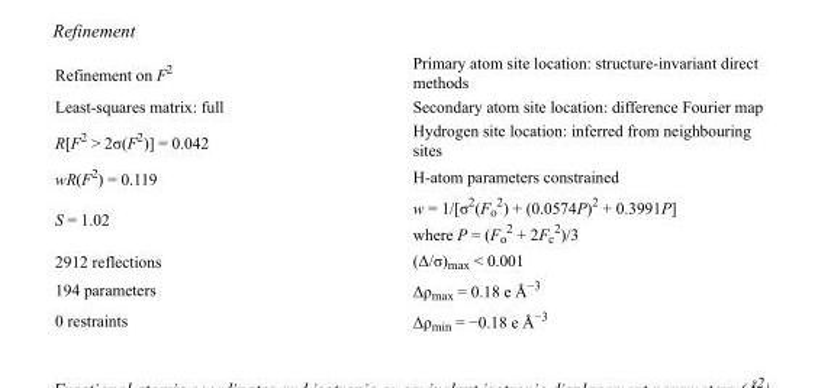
<table><tbody><tr><td>Refinement on F<sup>2</sup></td><td>Primary atom site location: structure-invariant direct methods</td></tr><tr><td>Least-squares matrix: full</td><td>Secondary atom site location: difference Fourier map</td></tr><tr><td>R[F<sup>2</sup> &gt; 2σ(F<sup>2</sup>)] = 0.042</td><td>Hydrogen site location: inferred from neighbouring sites</td></tr><tr><td>wR(F<sup>2</sup>) = 0.119</td><td>H-atom parameters constrained</td></tr><tr><td>S = 1.02</td><td>w = 1/[σ<sup>2</sup>(F<sub>o</sub> <sup>2</sup>) + (0.0574P)<sup>2</sup> + 0.3991P] where P = (F<sub>o</sub> <sup>2</sup> + 2F<sub>c</sub> <sup>2</sup>)/3</td></tr><tr><td>2912 reflections</td><td>(Δ/σ)<sub>max</sub> &lt; 0.001</td></tr><tr><td>194 parameters</td><td>Δρ<sub>max</sub> = 0.18 e Å<sup>−3</sup></td></tr><tr><td>0 restraints</td><td>Δρ<sub>min</sub> = −0.18 e Å<sup>−3</sup></td></tr></tbody></table>